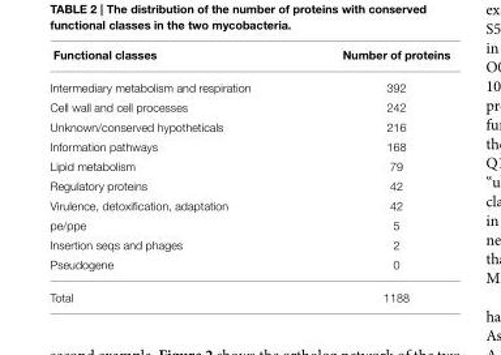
<table><thead><tr><td>Functional classes</td><td>Number of proteins</td></tr></thead><tbody><tr><td>Intermediary metabolism and respiration</td><td>392</td></tr><tr><td>Cell wall and cell processes</td><td>242</td></tr><tr><td>Unknown/conserved hypotheticals</td><td>216</td></tr><tr><td>Information pathways</td><td>168</td></tr><tr><td>Lipid metabolism</td><td>79</td></tr><tr><td>Regulatory proteins</td><td>42</td></tr><tr><td>Virulence, detoxification, adaptation</td><td>42</td></tr><tr><td>pe/ppe</td><td>5</td></tr><tr><td>Insertion seqs and phages</td><td>2</td></tr><tr><td>Pseudogene</td><td>0</td></tr><tr><td>Total</td><td>1188</td></tr></tbody></table>